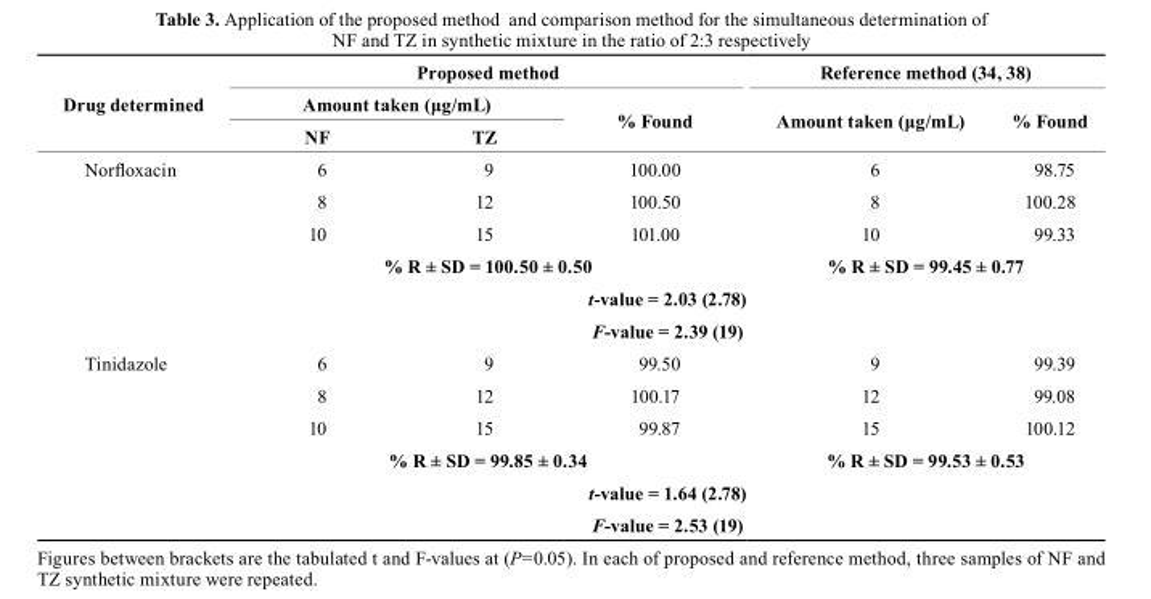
<table><thead><tr><td rowspan="3">Drug determined</td><td colspan="3">Proposed method</td><td colspan="2">Reference method (34, 38)</td></tr><tr><td colspan="2">Amount taken (μg/mL)</td><td rowspan="2">% Found</td><td rowspan="2">Amount taken (μg/mL)</td><td rowspan="2">% Found</td></tr><tr><td>NF</td><td>TZ</td></tr></thead><tbody><tr><td rowspan="6">Norfloxacin</td><td>6</td><td>9</td><td>100.00</td><td>6</td><td>98.75</td></tr><tr><td>8</td><td>12</td><td>100.50</td><td>8</td><td>100.28</td></tr><tr><td>10</td><td>15</td><td>101.00</td><td>10</td><td>99.33</td></tr><tr><td colspan="3">% R ± SD = 100.50 ± 0.50</td><td colspan="2">% R ± SD = 99.45 ± 0.77</td></tr><tr><td colspan="5">t-value = 2.03 (2.78)</td></tr><tr><td colspan="5">F-value = 2.39 (19)</td></tr><tr><td rowspan="6">Tinidazole</td><td>6</td><td>9</td><td>99.50</td><td>9</td><td>99.39</td></tr><tr><td>8</td><td>12</td><td>100.17</td><td>12</td><td>99.08</td></tr><tr><td>10</td><td>15</td><td>99.87</td><td>15</td><td>100.12</td></tr><tr><td colspan="3">% R ± SD = 99.85 ± 0.34</td><td colspan="2">% R ± SD = 99.53 ± 0.53</td></tr><tr><td colspan="5">t-value = 1.64 (2.78)</td></tr><tr><td colspan="5">F-value = 2.53 (19)</td></tr></tbody></table>